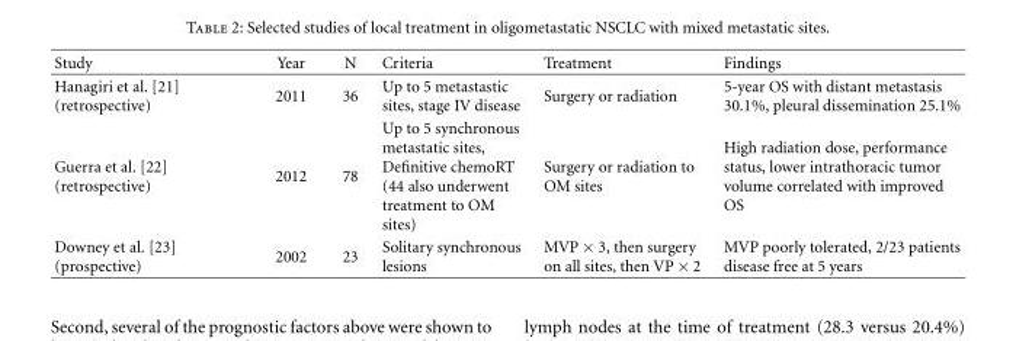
<table><thead><tr><td>Study</td><td>Year</td><td>N</td><td>Criteria</td><td>Treatment</td><td>Findings</td></tr></thead><tbody><tr><td>Hanagiri et al. [21] (retrospective)</td><td>2011</td><td>36</td><td>Up to 5 metastastic sites, stage IV disease</td><td>Surgery or radiation</td><td>5-year OS with distant metastasis 30.1%, pleural dissemination 25.1%</td></tr><tr><td>Guerra et al. [22] (retrospective)</td><td>2012</td><td>78</td><td>Up to 5 synchronous metastatic sites, Definitive chemoRT (44 also underwent treatment to OM sites)</td><td>Surgery or radiation to OM sites</td><td>High radiation dose, performance status, lower intrathoracic tumor volume correlated with improved OS</td></tr><tr><td>Downey et al. [23] (prospective)</td><td>2002</td><td>23</td><td>Solitary synchronous lesions</td><td>MVP × 3, then surgery on all sites, then VP × 2</td><td>MVP poorly tolerated, 2/23 patients disease free at 5 years</td></tr></tbody></table>